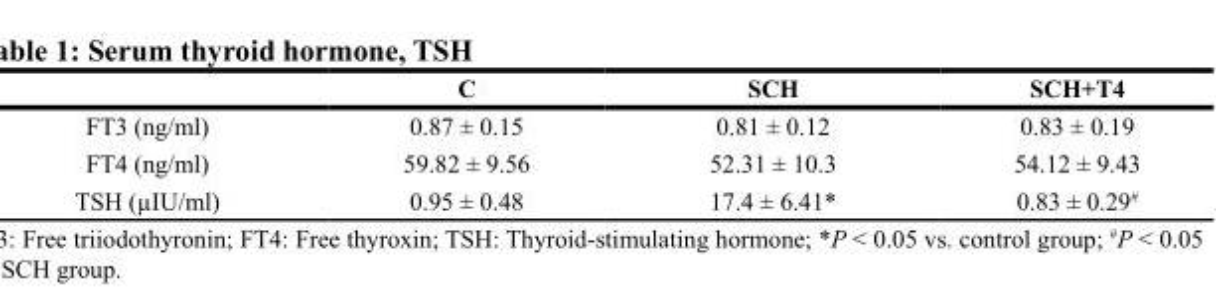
<table><thead><tr><td></td><td>C</td><td>SCH</td><td>SCH+T4</td></tr></thead><tbody><tr><td>FT3 (ng/ml)</td><td>0.87 ± 0.15</td><td>0.81 ± 0.12</td><td>0.83 ± 0.19</td></tr><tr><td>FT4 (ng/ml)</td><td>59.82 ± 9.56</td><td>52.31 ± 10.3</td><td>54.12 ± 9.43</td></tr><tr><td>TSH (µIU/ml)</td><td>0.95 ± 0.48</td><td>17.4 ± 6.41*</td><td>0.83 ± 0.29<sup>#</sup></td></tr></tbody></table>